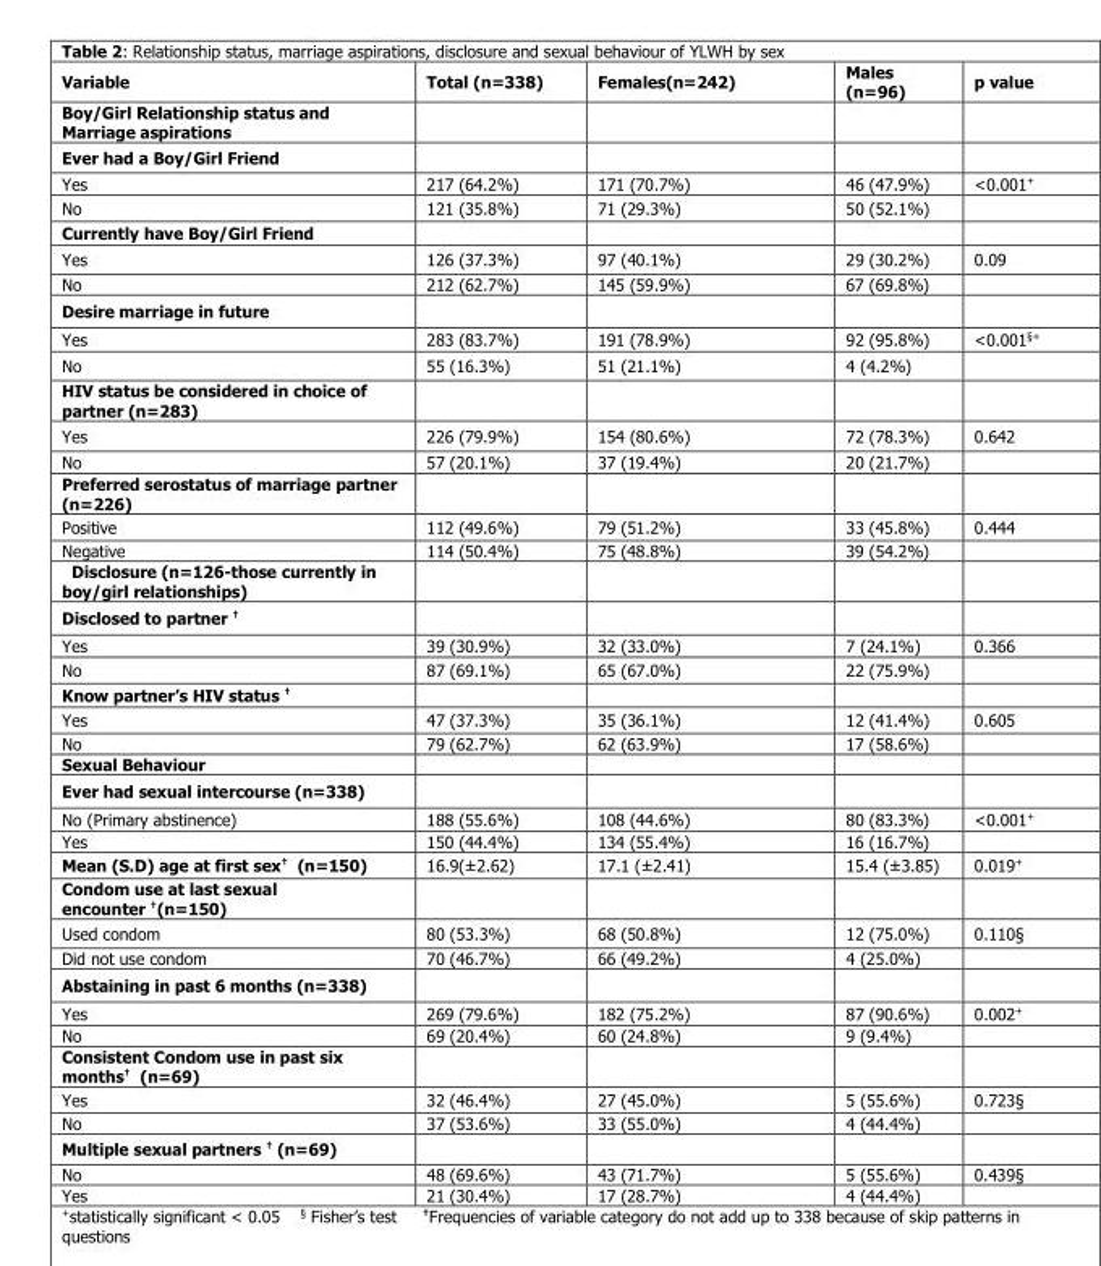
<table><thead><tr><td>Variable</td><td>Total (n=338)</td><td>Females(n=242)</td><td>Males (n=96)</td><td>p value</td></tr></thead><tbody><tr><td colspan="5">Boy/Girl Relationship status and Marriage aspirations</td></tr><tr><td colspan="5">Ever had a Boy/Girl Friend</td></tr><tr><td>Yes</td><td>217 (64.2%)</td><td>171 (70.7%)</td><td>46 (47.9%)</td><td>&lt;0.001+</td></tr><tr><td>No</td><td>121 (35.8%)</td><td>71 (29.3%)</td><td>50 (52.1%)</td><td></td></tr><tr><td colspan="5">Currently have Boy/Girl Friend</td></tr><tr><td>Yes</td><td>126 (37.3%)</td><td>97 (40.1%)</td><td>29 (30.2%)</td><td>0.09</td></tr><tr><td>No</td><td>212 (62.7%)</td><td>145 (59.9%)</td><td>67 (69.8%)</td><td></td></tr><tr><td colspan="5">Desire marriage in future</td></tr><tr><td>Yes</td><td>283 (83.7%)</td><td>191 (78.9%)</td><td>92 (95.8%)</td><td>&lt;0.001§+</td></tr><tr><td>No</td><td>55 (16.3%)</td><td>51 (21.1%)</td><td>4 (4.2%)</td><td></td></tr><tr><td colspan="5">HIV status be considered in choice of partner (n=283)</td></tr><tr><td>Yes</td><td>226 (79.9%)</td><td>154 (80.6%)</td><td>72 (78.3%)</td><td>0.642</td></tr><tr><td>No</td><td>57 (20.1%)</td><td>37 (19.4%)</td><td>20 (21.7%)</td><td></td></tr><tr><td colspan="5">Preferred serostatus of marriage partner (n=226)</td></tr><tr><td>Positive</td><td>112 (49.6%)</td><td>79 (51.2%)</td><td>33 (45.8%)</td><td>0.444</td></tr><tr><td>Negative</td><td>114 (50.4%)</td><td>75 (48.8%)</td><td>39 (54.2%)</td><td></td></tr><tr><td colspan="5">Disclosure (n=126-those currently in boy/girl relationships)</td></tr><tr><td colspan="5">Disclosed to partner †</td></tr><tr><td>Yes</td><td>39 (30.9%)</td><td>32 (33.0%)</td><td>7 (24.1%)</td><td>0.366</td></tr><tr><td>No</td><td>87 (69.1%)</td><td>65 (67.0%)</td><td>22 (75.9%)</td><td></td></tr><tr><td colspan="5">Know partner’s HIV status †</td></tr><tr><td>Yes</td><td>47 (37.3%)</td><td>35 (36.1%)</td><td>12 (41.4%)</td><td>0.605</td></tr><tr><td>No</td><td>79 (62.7%)</td><td>62 (63.9%)</td><td>17 (58.6%)</td><td></td></tr><tr><td colspan="5">Sexual Behaviour</td></tr><tr><td colspan="5">Ever had sexual intercourse (n=338)</td></tr><tr><td>No (Primary abstinence)</td><td>188 (55.6%)</td><td>108 (44.6%)</td><td>80 (83.3%)</td><td>&lt;0.001+</td></tr><tr><td>Yes</td><td>150 (44.4%)</td><td>134 (55.4%)</td><td>16 (16.7%)</td><td></td></tr><tr><td>Mean (S.D) age at first sex† (n=150)</td><td>16.9(±2.62)</td><td>17.1 (±2.41)</td><td>15.4 (±3.85)</td><td>0.019+</td></tr><tr><td colspan="5">Condom use at last sexual encounter †(n=150)</td></tr><tr><td>Used condom</td><td>80 (53.3%)</td><td>68 (50.8%)</td><td>12 (75.0%)</td><td>0.110§</td></tr><tr><td>Did not use condom</td><td>70 (46.7%)</td><td>66 (49.2%)</td><td>4 (25.0%)</td><td></td></tr><tr><td colspan="5">Abstaining in past 6 months (n=338)</td></tr><tr><td>Yes</td><td>269 (79.6%)</td><td>182 (75.2%)</td><td>87 (90.6%)</td><td>0.002+</td></tr><tr><td>No</td><td>69 (20.4%)</td><td>60 (24.8%)</td><td>9 (9.4%)</td><td></td></tr><tr><td colspan="5">Consistent Condom use in past six months† (n=69)</td></tr><tr><td>Yes</td><td>32 (46.4%)</td><td>27 (45.0%)</td><td>5 (55.6%)</td><td>0.723§</td></tr><tr><td>No</td><td>37 (53.6%)</td><td>33 (55.0%)</td><td>4 (44.4%)</td><td></td></tr><tr><td colspan="5">Multiple sexual partners † (n=69)</td></tr><tr><td>No</td><td>48 (69.6%)</td><td>43 (71.7%)</td><td>5 (55.6%)</td><td>0.439§</td></tr><tr><td>Yes</td><td>21 (30.4%)</td><td>17 (28.7%)</td><td>4 (44.4%)</td><td></td></tr></tbody></table>